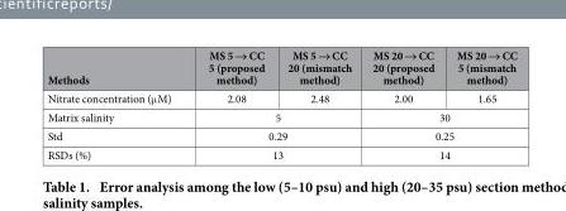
<table><thead><tr><td>Methods</td><td>MS 5 → CC 5 (proposed method)</td><td>MS 5 → CC 20 (mismatch method)</td><td>MS 20 → CC 20 (proposed method)</td><td>MS 20 → CC 5 (mismatch method)</td></tr></thead><tbody><tr><td>Nitrate concentration (μ M)</td><td>2.08</td><td>2.48</td><td>2.00</td><td>1.65</td></tr><tr><td>Matrix salinity</td><td colspan="2">5</td><td colspan="2">30</td></tr><tr><td>Std</td><td colspan="2">0.29</td><td colspan="2">0.25</td></tr><tr><td>RSDs (%)</td><td colspan="2">13</td><td colspan="2">14</td></tr></tbody></table>